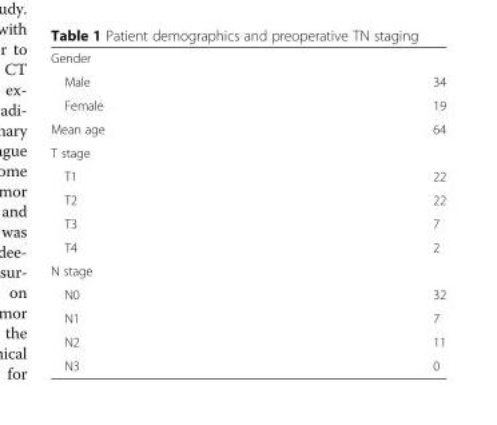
<table><tbody><tr><td colspan="2">Gender</td></tr><tr><td>Male</td><td>34</td></tr><tr><td>Female</td><td>19</td></tr><tr><td>Mean age</td><td>64</td></tr><tr><td colspan="2">T stage</td></tr><tr><td>T1</td><td>22</td></tr><tr><td>T2</td><td>22</td></tr><tr><td>T3</td><td>7</td></tr><tr><td>T4</td><td>2</td></tr><tr><td colspan="2">N stage</td></tr><tr><td>N0</td><td>32</td></tr><tr><td>N1</td><td>7</td></tr><tr><td>N2</td><td>11</td></tr><tr><td>N3</td><td>0</td></tr></tbody></table>